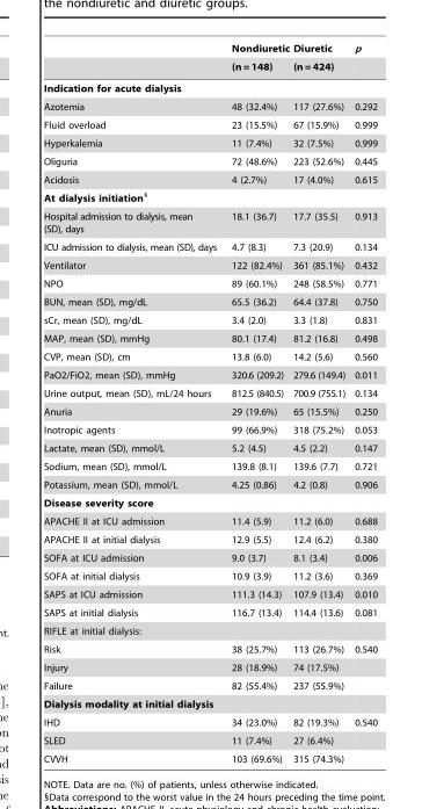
<table><thead><tr><td rowspan="2"></td><td rowspan="2">Nondiuretic (n = 148)</td><td rowspan="2">Diuretic (n = 424)</td><td rowspan="2">p</td></tr><tr></tr></thead><tbody><tr><td colspan="4">Indication for acute dialysis</td></tr><tr><td>Azotemia</td><td>48 (32.4%)</td><td>117 (27.6%)</td><td>0.292</td></tr><tr><td>Fluid overload</td><td>23 (15.5%)</td><td>67 (15.9%)</td><td>0.999</td></tr><tr><td>Hyperkalemia</td><td>11 (7.4%)</td><td>32 (7.5%)</td><td>0.999</td></tr><tr><td>Oliguria</td><td>72 (48.6%)</td><td>223 (52.6%)</td><td>0.445</td></tr><tr><td>Acidosis</td><td>4 (2.7%)</td><td>17 (4.0%)</td><td>0.615</td></tr><tr><td colspan="4">At dialysis initiation§</td></tr><tr><td>Hospital admission to dialysis, mean (SD), days</td><td>18.1 (36.7)</td><td>17.7 (35.5)</td><td>0.913</td></tr><tr><td>ICU admission to dialysis, mean (SD), days</td><td>4.7 (8.3)</td><td>7.3 (20.9)</td><td>0.134</td></tr><tr><td>Ventilator</td><td>122 (82.4%)</td><td>361 (85.1%)</td><td>0.432</td></tr><tr><td>NPO</td><td>89 (60.1%)</td><td>248 (58.5%)</td><td>0.771</td></tr><tr><td>BUN, mean (SD), mg/dL</td><td>65.5 (36.2)</td><td>64.4 (37.8)</td><td>0.750</td></tr><tr><td>sCr, mean (SD), mg/dL</td><td>3.4 (2.0)</td><td>3.3 (1.8)</td><td>0.831</td></tr><tr><td>MAP, mean (SD), mmHg</td><td>80.1 (17.4)</td><td>81.2 (16.8)</td><td>0.498</td></tr><tr><td>CVP, mean (SD), cm</td><td>13.8 (6.0)</td><td>14.2 (5.6)</td><td>0.560</td></tr><tr><td>PaO2/FiO2, mean (SD), mmHg</td><td>320.6 (209.2)</td><td>279.6 (149.4)</td><td>0.011</td></tr><tr><td>Urine output, mean (SD), mL/24 hours</td><td>812.5 (840.5)</td><td>700.9 (755.1)</td><td>0.134</td></tr><tr><td>Anuria</td><td>29 (19.6%)</td><td>65 (15.5%)</td><td>0.250</td></tr><tr><td>Inotropic agents</td><td>99 (66.9%)</td><td>318 (75.2%)</td><td>0.053</td></tr><tr><td>Lactate, mean (SD), mmol/L</td><td>5.2 (4.5)</td><td>4.5 (2.2)</td><td>0.147</td></tr><tr><td>Sodium, mean (SD), mmol/L</td><td>139.8 (8.1)</td><td>139.6 (7.7)</td><td>0.721</td></tr><tr><td>Potassium, mean (SD), mmol/L</td><td>4.25 (0.86)</td><td>4.2 (0.8)</td><td>0.906</td></tr><tr><td colspan="4">Disease severity score</td></tr><tr><td>APACHE II at ICU admission</td><td>11.4 (5.9)</td><td>11.2 (6.0)</td><td>0.688</td></tr><tr><td>APACHE II at initial dialysis</td><td>12.9 (5.5)</td><td>12.4 (6.2)</td><td>0.380</td></tr><tr><td>SOFA at ICU admission</td><td>9.0 (3.7)</td><td>8.1 (3.4)</td><td>0.006</td></tr><tr><td>SOFA at initial dialysis</td><td>10.9 (3.9)</td><td>11.2 (3.6)</td><td>0.369</td></tr><tr><td>SAPS at ICU admission</td><td>111.3 (14.3)</td><td>107.9 (13.4)</td><td>0.010</td></tr><tr><td>SAPS at initial dialysis</td><td>116.7 (13.4)</td><td>114.4 (13.6)</td><td>0.081</td></tr><tr><td colspan="4">RIFLE at initial dialysis:</td></tr><tr><td>Risk</td><td>38 (25.7%)</td><td>113 (26.7%)</td><td>0.540</td></tr><tr><td>Injury</td><td>28 (18.9%)</td><td>74 (17.5%)</td><td></td></tr><tr><td>Failure</td><td>82 (55.4%)</td><td>237 (55.9%)</td><td></td></tr><tr><td colspan="4">Dialysis modality at initial dialysis</td></tr><tr><td>IHD</td><td>34 (23.0%)</td><td>82 (19.3%)</td><td>0.540</td></tr><tr><td>SLED</td><td>11 (7.4%)</td><td>27 (6.4%)</td><td></td></tr><tr><td>CVVH</td><td>103 (69.6%)</td><td>315 (74.3%)</td><td></td></tr></tbody></table>